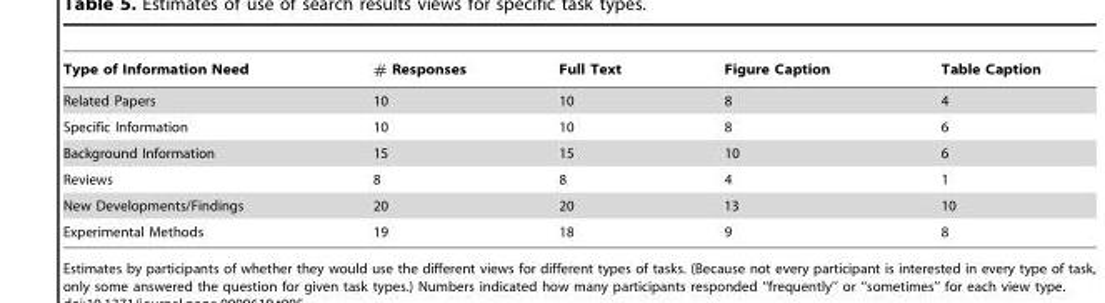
<table><thead><tr><td>Type of Information Need</td><td># Responses</td><td>Full Text</td><td>Figure Caption</td><td>Table Caption</td></tr></thead><tbody><tr><td>Related Papers</td><td>10</td><td>10</td><td>8</td><td>4</td></tr><tr><td>Specific Information</td><td>10</td><td>10</td><td>8</td><td>6</td></tr><tr><td>Background Information</td><td>15</td><td>15</td><td>10</td><td>6</td></tr><tr><td>Reviews</td><td>8</td><td>8</td><td>4</td><td>1</td></tr><tr><td>New Developments/Findings</td><td>20</td><td>20</td><td>13</td><td>10</td></tr><tr><td>Experimental Methods</td><td>19</td><td>18</td><td>9</td><td>8</td></tr></tbody></table>